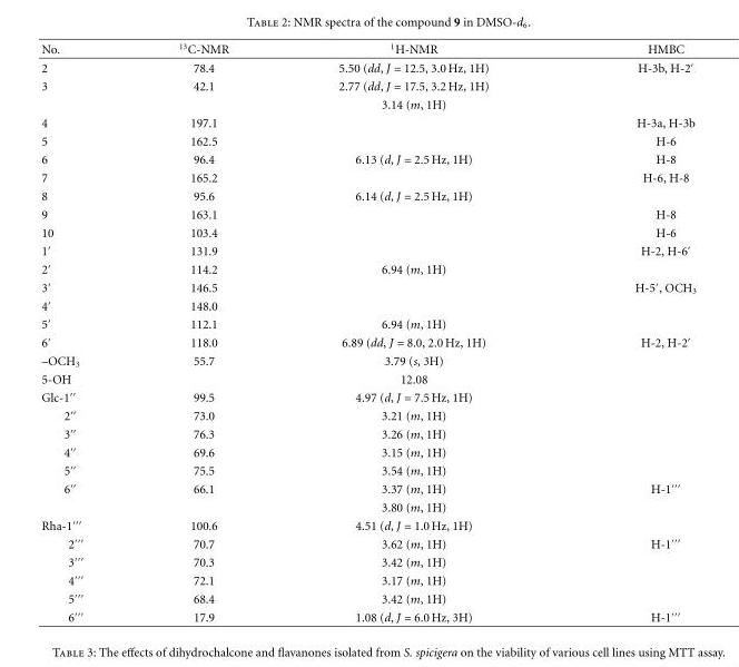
<table><thead><tr><td>No.</td><td><sup>13</sup>C-NMR</td><td><sup>1</sup>H-NMR</td><td>HMBC</td></tr></thead><tbody><tr><td>2</td><td>78.4</td><td>5.50 (dd, J = 12.5, 3.0 Hz, 1H)</td><td>H-3b, H-2′</td></tr><tr><td rowspan="2">3</td><td>42.1</td><td>2.77 (dd, J = 17.5, 3.2 Hz, 1H)</td><td></td></tr><tr><td></td><td>3.14 (m, 1H)</td><td></td></tr><tr><td>4</td><td>197.1</td><td></td><td>H-3a, H-3b</td></tr><tr><td>5</td><td>162.5</td><td></td><td>H-6</td></tr><tr><td>6</td><td>96.4</td><td>6.13 (d, J = 2.5 Hz, 1H)</td><td>H-8</td></tr><tr><td>7</td><td>165.2</td><td></td><td>H-6, H-8</td></tr><tr><td>8</td><td>95.6</td><td>6.14 (d, J = 2.5 Hz, 1H)</td><td></td></tr><tr><td>9</td><td>163.1</td><td></td><td>H-8</td></tr><tr><td>10</td><td>103.4</td><td></td><td>H-6</td></tr><tr><td>1′</td><td>131.9</td><td></td><td>H-2, H-6′</td></tr><tr><td>2′</td><td>114.2</td><td>6.94 (m, 1H)</td><td></td></tr><tr><td>3′</td><td>146.5</td><td></td><td>H-5′, OCH<sub>3</sub></td></tr><tr><td>4′</td><td>148.0</td><td></td><td></td></tr><tr><td>5′</td><td>112.1</td><td>6.94 (m, 1H)</td><td></td></tr><tr><td>6′</td><td>118.0</td><td>6.89 (dd, J = 8.0, 2.0 Hz, 1H)</td><td>H-2, H-2′</td></tr><tr><td>–OCH<sub>3</sub></td><td>55.7</td><td>3.79 (s, 3H)</td><td></td></tr><tr><td>5-OH</td><td></td><td>12.08</td><td></td></tr><tr><td>Glc-1′′</td><td>99.5</td><td>4.97 (d, J = 7.5 Hz, 1H)</td><td></td></tr><tr><td>2′′</td><td>73.0</td><td>3.21 (m, 1H)</td><td></td></tr><tr><td>3′′</td><td>76.3</td><td>3.26 (m, 1H)</td><td></td></tr><tr><td>4′′</td><td>69.6</td><td>3.15 (m, 1H)</td><td></td></tr><tr><td>5′′</td><td>75.5</td><td>3.54 (m, 1H)</td><td></td></tr><tr><td rowspan="2">6′′</td><td>66.1</td><td>3.37 (m, 1H)</td><td>H-1′′′</td></tr><tr><td></td><td>3.80 (m, 1H)</td><td></td></tr><tr><td>Rha-1′′′</td><td>100.6</td><td>4.51 (d, J = 1.0 Hz, 1H)</td><td></td></tr><tr><td>2′′′</td><td>70.7</td><td>3.62 (m, 1H)</td><td>H-1′′′</td></tr><tr><td>3′′′</td><td>70.3</td><td>3.42 (m, 1H)</td><td></td></tr><tr><td>4′′′</td><td>72.1</td><td>3.17 (m, 1H)</td><td></td></tr><tr><td>5′′′</td><td>68.4</td><td>3.42 (m, 1H)</td><td></td></tr><tr><td>6′′′</td><td>17.9</td><td>1.08 (d, J = 6.0 Hz, 3H)</td><td>H-1′′′</td></tr></tbody></table>